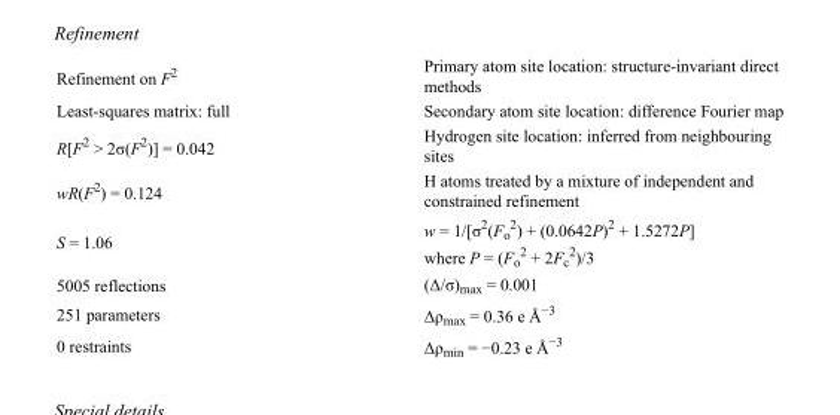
<table><tbody><tr><td>Refinement on F<sup>2</sup></td><td>Primary atom site location: structure-invariant direct methods</td></tr><tr><td>Least-squares matrix: full</td><td>Secondary atom site location: difference Fourier map</td></tr><tr><td>R[F<sup>2</sup> &gt; 2σ(F<sup>2</sup>)] = 0.042</td><td>Hydrogen site location: inferred from neighbouring sites</td></tr><tr><td>wR(F<sup>2</sup>) = 0.124</td><td>H atoms treated by a mixture of independent and constrained refinement</td></tr><tr><td>S = 1.06</td><td>w = 1/[σ<sup>2</sup>(F<sub>o</sub> <sup>2</sup>) + (0.0642P)<sup>2</sup> + 1.5272P] where P = (F<sub>o</sub> <sup>2</sup> + 2F<sub>c</sub> <sup>2</sup>)/3</td></tr><tr><td>5005 reflections</td><td>(Δ/σ)<sub>max</sub> = 0.001</td></tr><tr><td>251 parameters</td><td>Δρ<sub>max</sub> = 0.36 e Å<sup>−3</sup></td></tr><tr><td>0 restraints</td><td>Δρ<sub>min</sub> = −0.23 e Å<sup>−3</sup></td></tr></tbody></table>